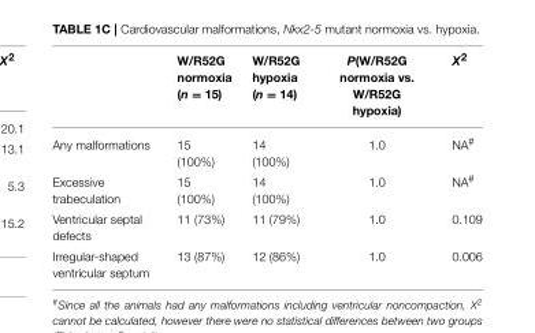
<table><thead><tr><td></td><td>W/R52G normoxia (n = 15)</td><td>W/R52G hypoxia (n = 14)</td><td>P(W/R52G normoxia vs. W/R52G hypoxia)</td><td>X<sup>2</sup></td></tr></thead><tbody><tr><td>Any malformations</td><td>15 (100%)</td><td>14 (100%)</td><td>1.0</td><td>NA<sup>#</sup></td></tr><tr><td>Excessive trabeculation</td><td>15 (100%)</td><td>14 (100%)</td><td>1.0</td><td>NA<sup>#</sup></td></tr><tr><td>Ventricular septal defects</td><td>11 (73%)</td><td>11 (79%)</td><td>1.0</td><td>0.109</td></tr><tr><td>Irregular-shaped ventricular septum</td><td>13 (87%)</td><td>12 (86%)</td><td>1.0</td><td>0.006</td></tr></tbody></table>